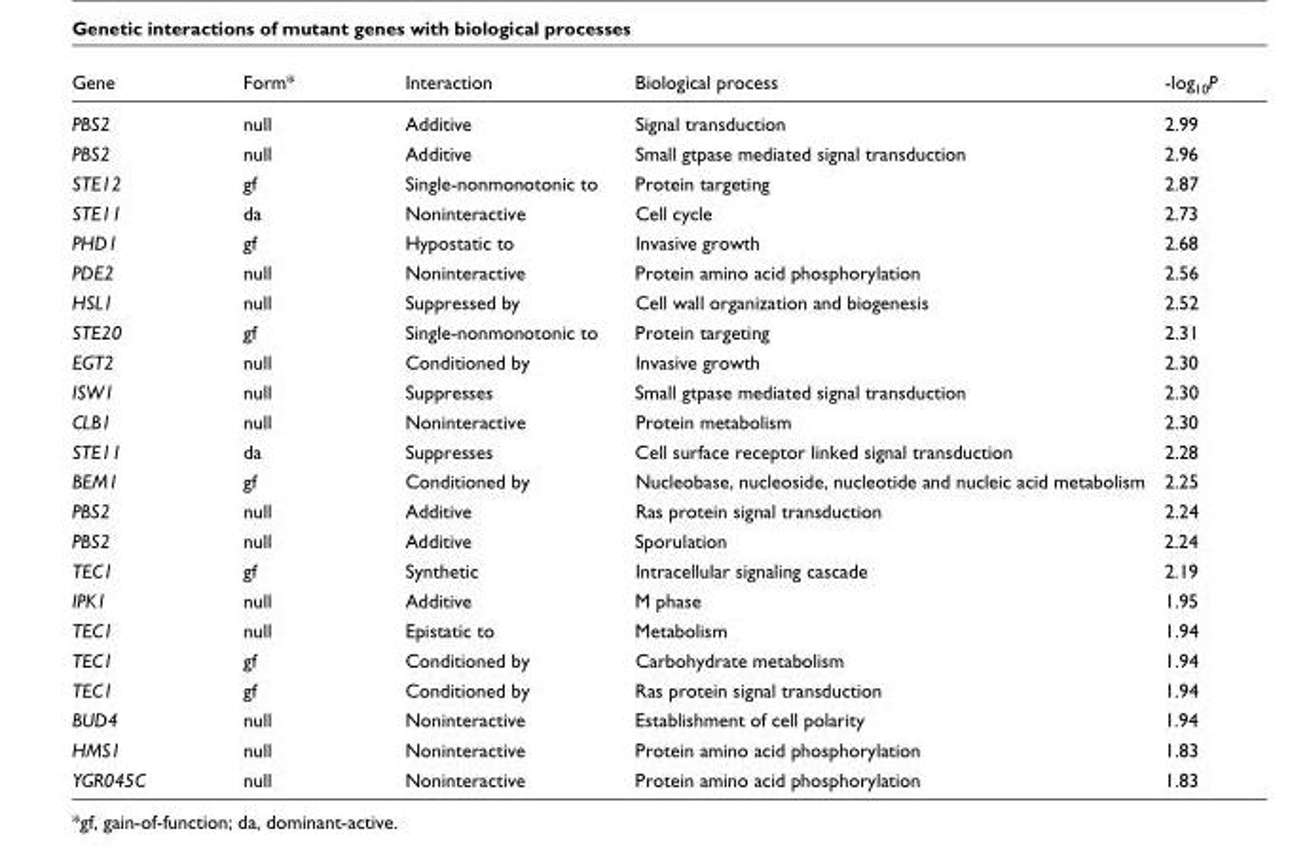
<table><thead><tr><td>Gene</td><td>Form*</td><td>Interaction</td><td>Biological process</td><td>-log10P</td></tr></thead><tbody><tr><td>PBS2</td><td>null</td><td>Additive</td><td>Signal transduction</td><td>2.99</td></tr><tr><td>PBS2</td><td>null</td><td>Additive</td><td>Small gtpase mediated signal transduction</td><td>2.96</td></tr><tr><td>STE12</td><td>gf</td><td>Single-nonmonotonic to</td><td>Protein targeting</td><td>2.87</td></tr><tr><td>STE11</td><td>da</td><td>Noninteractive</td><td>Cell cycle</td><td>2.73</td></tr><tr><td>PHD1</td><td>gf</td><td>Hypostatic to</td><td>Invasive growth</td><td>2.68</td></tr><tr><td>PDE2</td><td>null</td><td>Noninteractive</td><td>Protein amino acid phosphorylation</td><td>2.56</td></tr><tr><td>HSL1</td><td>null</td><td>Suppressed by</td><td>Cell wall organization and biogenesis</td><td>2.52</td></tr><tr><td>STE20</td><td>gf</td><td>Single-nonmonotonic to</td><td>Protein targeting</td><td>2.31</td></tr><tr><td>EGT2</td><td>null</td><td>Conditioned by</td><td>Invasive growth</td><td>2.30</td></tr><tr><td>ISW1</td><td>null</td><td>Suppresses</td><td>Small gtpase mediated signal transduction</td><td>2.30</td></tr><tr><td>CLB1</td><td>null</td><td>Noninteractive</td><td>Protein metabolism</td><td>2.30</td></tr><tr><td>STE11</td><td>da</td><td>Suppresses</td><td>Cell surface receptor linked signal transduction</td><td>2.28</td></tr><tr><td>BEM1</td><td>gf</td><td>Conditioned by</td><td>Nucleobase, nucleoside, nucleotide and nucleic acid metabolism</td><td>2.25</td></tr><tr><td>PBS2</td><td>null</td><td>Additive</td><td>Ras protein signal transduction</td><td>2.24</td></tr><tr><td>PBS2</td><td>null</td><td>Additive</td><td>Sporulation</td><td>2.24</td></tr><tr><td>TEC1</td><td>gf</td><td>Synthetic</td><td>Intracellular signaling cascade</td><td>2.19</td></tr><tr><td>IPK1</td><td>null</td><td>Additive</td><td>M phase</td><td>1.95</td></tr><tr><td>TEC1</td><td>null</td><td>Epistatic to</td><td>Metabolism</td><td>1.94</td></tr><tr><td>TEC1</td><td>gf</td><td>Conditioned by</td><td>Carbohydrate metabolism</td><td>1.94</td></tr><tr><td>TEC1</td><td>gf</td><td>Conditioned by</td><td>Ras protein signal transduction</td><td>1.94</td></tr><tr><td>BUD4</td><td>null</td><td>Noninteractive</td><td>Establishment of cell polarity</td><td>1.94</td></tr><tr><td>HMS1</td><td>null</td><td>Noninteractive</td><td>Protein amino acid phosphorylation</td><td>1.83</td></tr><tr><td>YGR045C</td><td>null</td><td>Noninteractive</td><td>Protein amino acid phosphorylation</td><td>1.83</td></tr></tbody></table>